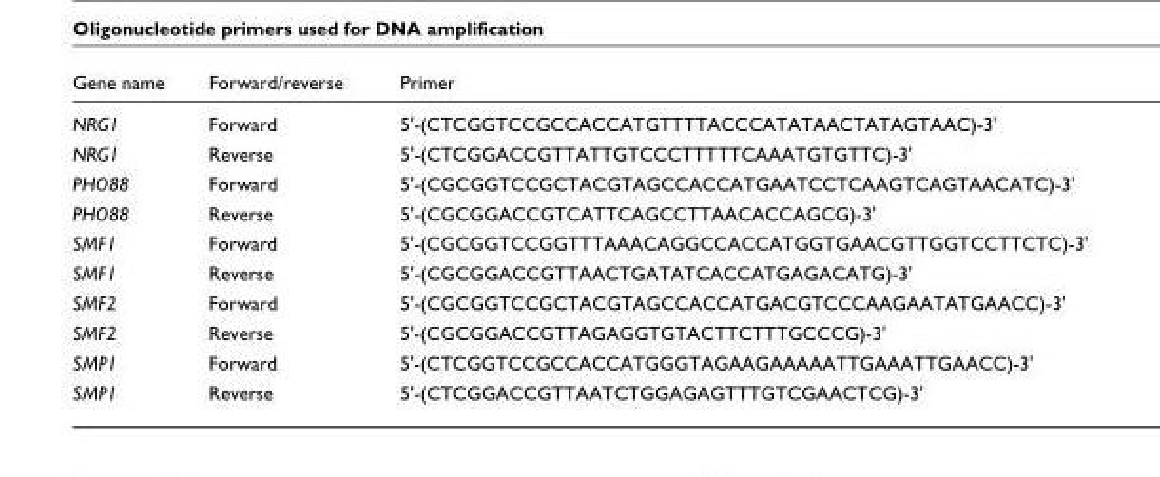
<table><thead><tr><td>Gene name</td><td>Forward/reverse</td><td>Primer</td></tr></thead><tbody><tr><td>NRG1</td><td>Forward</td><td>5&#x27;-(CTCGGTCCGCCACCATGTTTTACCCATATAACTATAGTAAC)-3&#x27;</td></tr><tr><td>NRG1</td><td>Reverse</td><td>5&#x27;-(CTCGGACCGTTATTGTCCCTTTTTCAAATGTGTTC)-3&#x27;</td></tr><tr><td>PHO88</td><td>Forward</td><td>5&#x27;-(CGCGGTCCGCTACGTAGCCACCATGAATCCTCAAGTCAGTAACATC)-3&#x27;</td></tr><tr><td>PHO88</td><td>Reverse</td><td>5&#x27;-(CGCGGACCGTCATTCAGCCTTAACACCAGCG)-3&#x27;</td></tr><tr><td>SMF1</td><td>Forward</td><td>5&#x27;-(CGCGGTCCGGTTTAAACAGGCCACCATGGTGAACGTTGGTCCTTCTC)-3&#x27;</td></tr><tr><td>SMF1</td><td>Reverse</td><td>5&#x27;-(CGCGGACCGTTAACTGATATCACCATGAGACATG)-3&#x27;</td></tr><tr><td>SMF2</td><td>Forward</td><td>5&#x27;-(CGCGGTCCGCTACGTAGCCACCATGACGTCCCAAGAATATGAACC)-3&#x27;</td></tr><tr><td>SMF2</td><td>Reverse</td><td>5&#x27;-(CGCGGACCGTTAGAGGTGTACTTCTTTGCCCG)-3&#x27;</td></tr><tr><td>SMP1</td><td>Forward</td><td>5&#x27;-(CTCGGTCCGCCACCATGGGTAGAAGAAAAATTGAAATTGAACC)-3&#x27;</td></tr><tr><td>SMP1</td><td>Reverse</td><td>5&#x27;-(CTCGGACCGTTAATCTGGAGAGTTTGTCGAACTCG)-3&#x27;</td></tr></tbody></table>